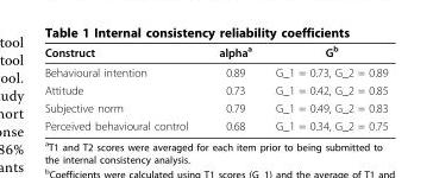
<table><thead><tr><td>Construct</td><td>alpha<sup>a</sup></td><td>G<sup>b</sup></td></tr></thead><tbody><tr><td>Behavioural intention</td><td>0.89</td><td>G_1 = 0.73, G_2 = 0.89</td></tr><tr><td>Attitude</td><td>0.73</td><td>G_1 = 0.42, G_2 = 0.85</td></tr><tr><td>Subjective norm</td><td>0.79</td><td>G_1 = 0.49, G_2 = 0.83</td></tr><tr><td>Perceived behavioural control</td><td>0.68</td><td>G_1 = 0.34, G_2 = 0.75</td></tr></tbody></table>